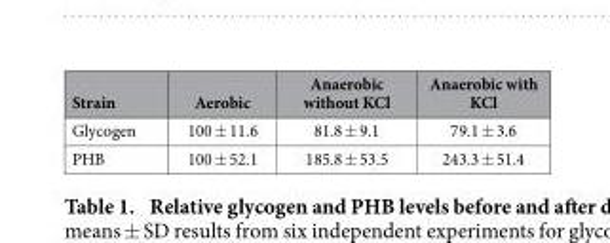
<table><thead><tr><td>Strain</td><td>Aerobic</td><td>Anaerobic without KCl</td><td>Anaerobic with KCl</td></tr></thead><tbody><tr><td>Glycogen</td><td>100 ± 11.6</td><td>81.8 ± 9.1</td><td>79.1 ± 3.6</td></tr><tr><td>PHB</td><td>100 ± 52.1</td><td>185.8 ± 53.5</td><td>243.3 ± 51.4</td></tr></tbody></table>